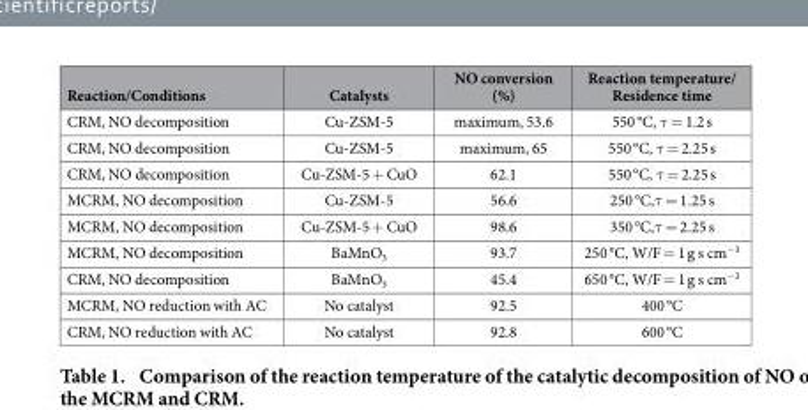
<table><thead><tr><td>Reaction/Conditions</td><td>Catalysts</td><td>NO conversion (%)</td><td>Reaction temperature/ Residence time</td></tr></thead><tbody><tr><td>CRM, NO decomposition</td><td>Cu-ZSM-5</td><td>maximum, 53.6</td><td>550 °C, τ = 1.2 s</td></tr><tr><td>CRM, NO decomposition</td><td>Cu-ZSM-5</td><td>maximum, 65</td><td>550 °C, τ = 2.25 s</td></tr><tr><td>CRM, NO decomposition</td><td>Cu-ZSM-5 + CuO</td><td>62.1</td><td>550 °C, τ = 2.25 s</td></tr><tr><td>MCRM, NO decomposition</td><td>Cu-ZSM-5</td><td>56.6</td><td>250 °C,τ = 1.25 s</td></tr><tr><td>MCRM, NO decomposition</td><td>Cu-ZSM-5 + CuO</td><td>98.6</td><td>350 °C,τ = 2.25 s</td></tr><tr><td>MCRM, NO decomposition</td><td>BaMnO<sub>3</sub></td><td>93.7</td><td>250 °C, W/F = 1 g s cm<sup>−3</sup></td></tr><tr><td>CRM, NO decomposition</td><td>BaMnO<sub>3</sub></td><td>45.4</td><td>650 °C, W/F = 1 g s cm<sup>−3</sup></td></tr><tr><td>MCRM, NO reduction with AC</td><td>No catalyst</td><td>92.5</td><td>400 °C</td></tr><tr><td>CRM, NO reduction with AC</td><td>No catalyst</td><td>92.8</td><td>600 °C</td></tr></tbody></table>